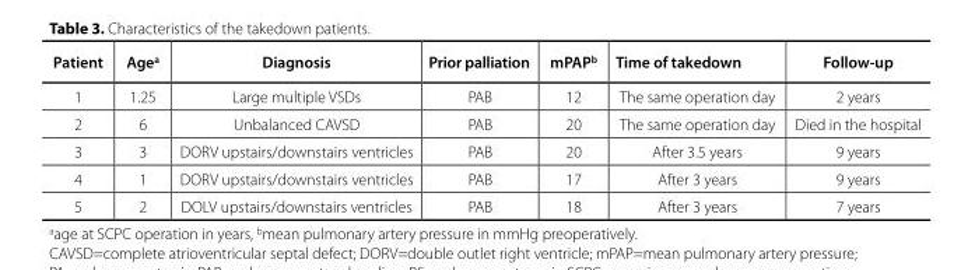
<table><thead><tr><td>Patient</td><td>Age<sup>a</sup></td><td>Diagnosis</td><td>Prior palliation</td><td>mPAP<sup>b</sup></td><td>Time of takedown</td><td>Follow-up</td></tr></thead><tbody><tr><td>1</td><td>1.25</td><td>Large multiple VSDs</td><td>PAB</td><td>12</td><td>The same operation day</td><td>2 years</td></tr><tr><td>2</td><td>6</td><td>Unbalanced CAVSD</td><td>PAB</td><td>20</td><td>The same operation day</td><td>Died in the hospital</td></tr><tr><td>3</td><td>3</td><td>DORV upstairs/downstairs ventricles</td><td>PAB</td><td>20</td><td>After 3.5 years</td><td>9 years</td></tr><tr><td>4</td><td>1</td><td>DORV upstairs/downstairs ventricles</td><td>PAB</td><td>17</td><td>After 3 years</td><td>9 years</td></tr><tr><td>5</td><td>2</td><td>DOLV upstairs/downstairs ventricles</td><td>PAB</td><td>18</td><td>After 3 years</td><td>7 years</td></tr></tbody></table>